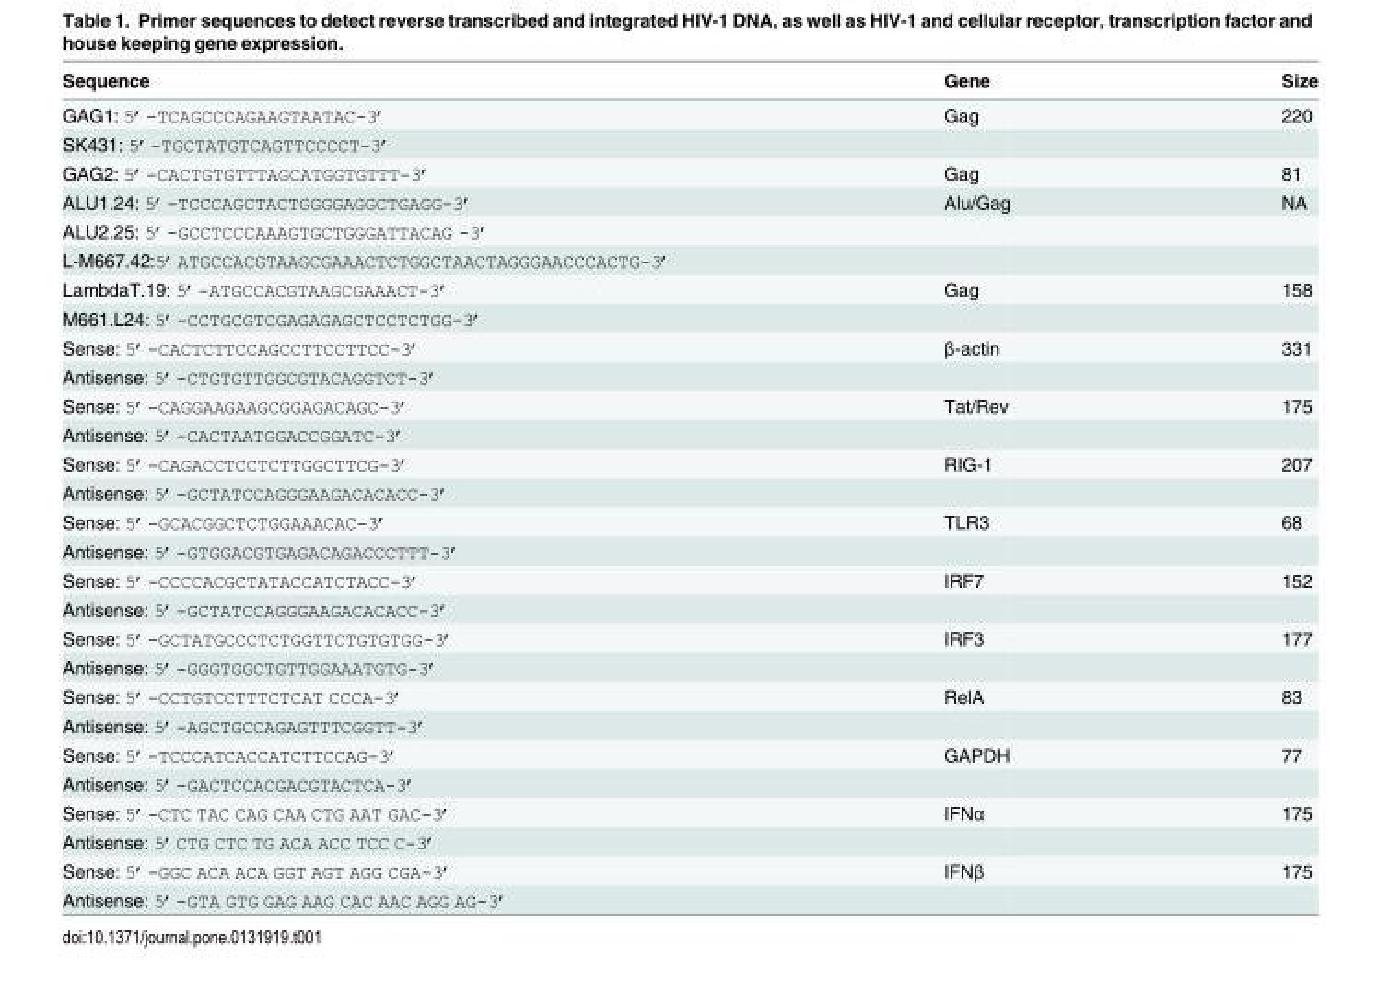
<table><thead><tr><td>Sequence</td><td>Gene</td><td>Size</td></tr></thead><tbody><tr><td>GAG1: 5’-TCAGCCCAGAAGTAATAC-3’</td><td>Gag</td><td>220</td></tr><tr><td colspan="3">SK431: 5’-TGCTATGTCAGTTCCCCT-3’</td></tr><tr><td>GAG2: 5’-CACTGTGTTTAGCATGGTGTTT-3’</td><td>Gag</td><td>81</td></tr><tr><td>ALU1.24: 5’-TCCCAGCTACTGGGGAGGCTGAGG-3’</td><td>Alu/Gag</td><td>NA</td></tr><tr><td colspan="3">ALU2.25: 5’-GCCTCCCAAAGTGCTGGGATTACAG -3’</td></tr><tr><td colspan="3">L-M667.42:5’ATGCCACGTAAGCGAAACTCTGGCTAACTAGGGAACCCACTG-3’</td></tr><tr><td>LambdaT.19: 5’-ATGCCACGTAAGCGAAACT-3’</td><td>Gag</td><td>158</td></tr><tr><td colspan="3">M661.L24: 5’-CCTGCGTCGAGAGAGCTCCTCTGG-3’</td></tr><tr><td>Sense: 5’-CACTCTTCCAGCCTTCCTTCC-3’</td><td>β-actin</td><td>331</td></tr><tr><td colspan="3">Antisense: 5’-CTGTGTTGGCGTACAGGTCT-3’</td></tr><tr><td>Sense: 5’-CAGGAAGAAGCGGAGACAGC-3’</td><td>Tat/Rev</td><td>175</td></tr><tr><td colspan="3">Antisense: 5’-CACTAATGGACCGGATC-3’</td></tr><tr><td>Sense: 5’-CAGACCTCCTCTTGGCTTCG-3’</td><td>RIG-1</td><td>207</td></tr><tr><td colspan="3">Antisense: 5’-GCTATCCAGGGAAGACACACC-3’</td></tr><tr><td>Sense: 5’-GCACGGCTCTGGAAACAC-3’</td><td>TLR3</td><td>68</td></tr><tr><td colspan="3">Antisense: 5’-GTGGACGTGAGACAGACCCTTT-3’</td></tr><tr><td>Sense: 5’-CCCCACGCTATACCATCTACC-3’</td><td>IRF7</td><td>152</td></tr><tr><td colspan="3">Antisense: 5’-GCTATCCAGGGAAGACACACC-3’</td></tr><tr><td>Sense: 5’-GCTATGCCCTCTGGTTCTGTGTGG-3’</td><td>IRF3</td><td>177</td></tr><tr><td colspan="3">Antisense: 5’-GGGTGGCTGTTGGAAATGTG-3’</td></tr><tr><td>Sense: 5’-CCTGTCCTTTCTCAT CCCA-3’</td><td>RelA</td><td>83</td></tr><tr><td colspan="3">Antisense: 5’-AGCTGCCAGAGTTTCGGTT-3’</td></tr><tr><td>Sense: 5’-TCCCATCACCATCTTCCAG-3’</td><td>GAPDH</td><td>77</td></tr><tr><td colspan="3">Antisense: 5’-GACTCCACGACGTACTCA-3’</td></tr><tr><td>Sense: 5’-CTC TAC CAG CAA CTG AAT GAC-3’</td><td>IFNα</td><td>175</td></tr><tr><td colspan="3">Antisense: 5’CTG CTC TG ACA ACC TCC C-3’</td></tr><tr><td>Sense: 5’-GGC ACA ACA GGT AGT AGG CGA-3’</td><td>IFNβ</td><td>175</td></tr><tr><td>Antisense: 5’-GTA GTG GAG AAG CAC AAC AGG AG-3’</td><td></td><td></td></tr></tbody></table>